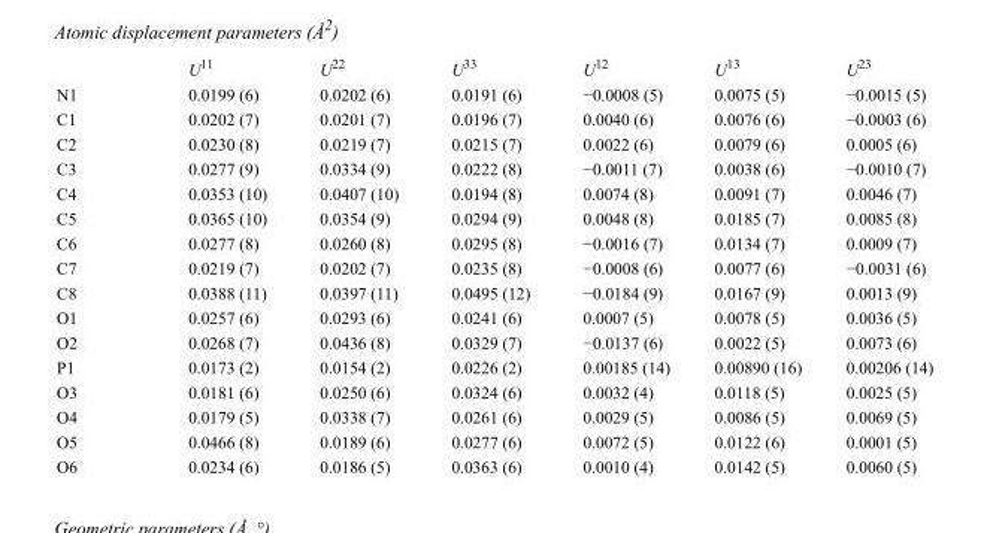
<table><thead><tr><td></td><td>U<sup>11</sup></td><td>U<sup>22</sup></td><td>U<sup>33</sup></td><td>U<sup>12</sup></td><td>U<sup>13</sup></td><td>U<sup>23</sup></td></tr></thead><tbody><tr><td>N1</td><td>0.0199 (6)</td><td>0.0202 (6)</td><td>0.0191 (6)</td><td>−0.0008 (5)</td><td>0.0075 (5)</td><td>−0.0015 (5)</td></tr><tr><td>C1</td><td>0.0202 (7)</td><td>0.0201 (7)</td><td>0.0196 (7)</td><td>0.0040 (6)</td><td>0.0076 (6)</td><td>−0.0003 (6)</td></tr><tr><td>C2</td><td>0.0230 (8)</td><td>0.0219 (7)</td><td>0.0215 (7)</td><td>0.0022 (6)</td><td>0.0079 (6)</td><td>0.0005 (6)</td></tr><tr><td>C3</td><td>0.0277 (9)</td><td>0.0334 (9)</td><td>0.0222 (8)</td><td>−0.0011 (7)</td><td>0.0038 (6)</td><td>−0.0010 (7)</td></tr><tr><td>C4</td><td>0.0353 (10)</td><td>0.0407 (10)</td><td>0.0194 (8)</td><td>0.0074 (8)</td><td>0.0091 (7)</td><td>0.0046 (7)</td></tr><tr><td>C5</td><td>0.0365 (10)</td><td>0.0354 (9)</td><td>0.0294 (9)</td><td>0.0048 (8)</td><td>0.0185 (7)</td><td>0.0085 (8)</td></tr><tr><td>C6</td><td>0.0277 (8)</td><td>0.0260 (8)</td><td>0.0295 (8)</td><td>−0.0016 (7)</td><td>0.0134 (7)</td><td>0.0009 (7)</td></tr><tr><td>C7</td><td>0.0219 (7)</td><td>0.0202 (7)</td><td>0.0235 (8)</td><td>−0.0008 (6)</td><td>0.0077 (6)</td><td>−0.0031 (6)</td></tr><tr><td>C8</td><td>0.0388 (11)</td><td>0.0397 (11)</td><td>0.0495 (12)</td><td>−0.0184 (9)</td><td>0.0167 (9)</td><td>0.0013 (9)</td></tr><tr><td>O1</td><td>0.0257 (6)</td><td>0.0293 (6)</td><td>0.0241 (6)</td><td>0.0007 (5)</td><td>0.0078 (5)</td><td>0.0036 (5)</td></tr><tr><td>O2</td><td>0.0268 (7)</td><td>0.0436 (8)</td><td>0.0329 (7)</td><td>−0.0137 (6)</td><td>0.0022 (5)</td><td>0.0073 (6)</td></tr><tr><td>P1</td><td>0.0173 (2)</td><td>0.0154 (2)</td><td>0.0226 (2)</td><td>0.00185 (14)</td><td>0.00890 (16)</td><td>0.00206 (14)</td></tr><tr><td>O3</td><td>0.0181 (6)</td><td>0.0250 (6)</td><td>0.0324 (6)</td><td>0.0032 (4)</td><td>0.0118 (5)</td><td>0.0025 (5)</td></tr><tr><td>O4</td><td>0.0179 (5)</td><td>0.0338 (7)</td><td>0.0261 (6)</td><td>0.0029 (5)</td><td>0.0086 (5)</td><td>0.0069 (5)</td></tr><tr><td>O5</td><td>0.0466 (8)</td><td>0.0189 (6)</td><td>0.0277 (6)</td><td>0.0072 (5)</td><td>0.0122 (6)</td><td>0.0001 (5)</td></tr><tr><td>O6</td><td>0.0234 (6)</td><td>0.0186 (5)</td><td>0.0363 (6)</td><td>0.0010 (4)</td><td>0.0142 (5)</td><td>0.0060 (5)</td></tr></tbody></table>